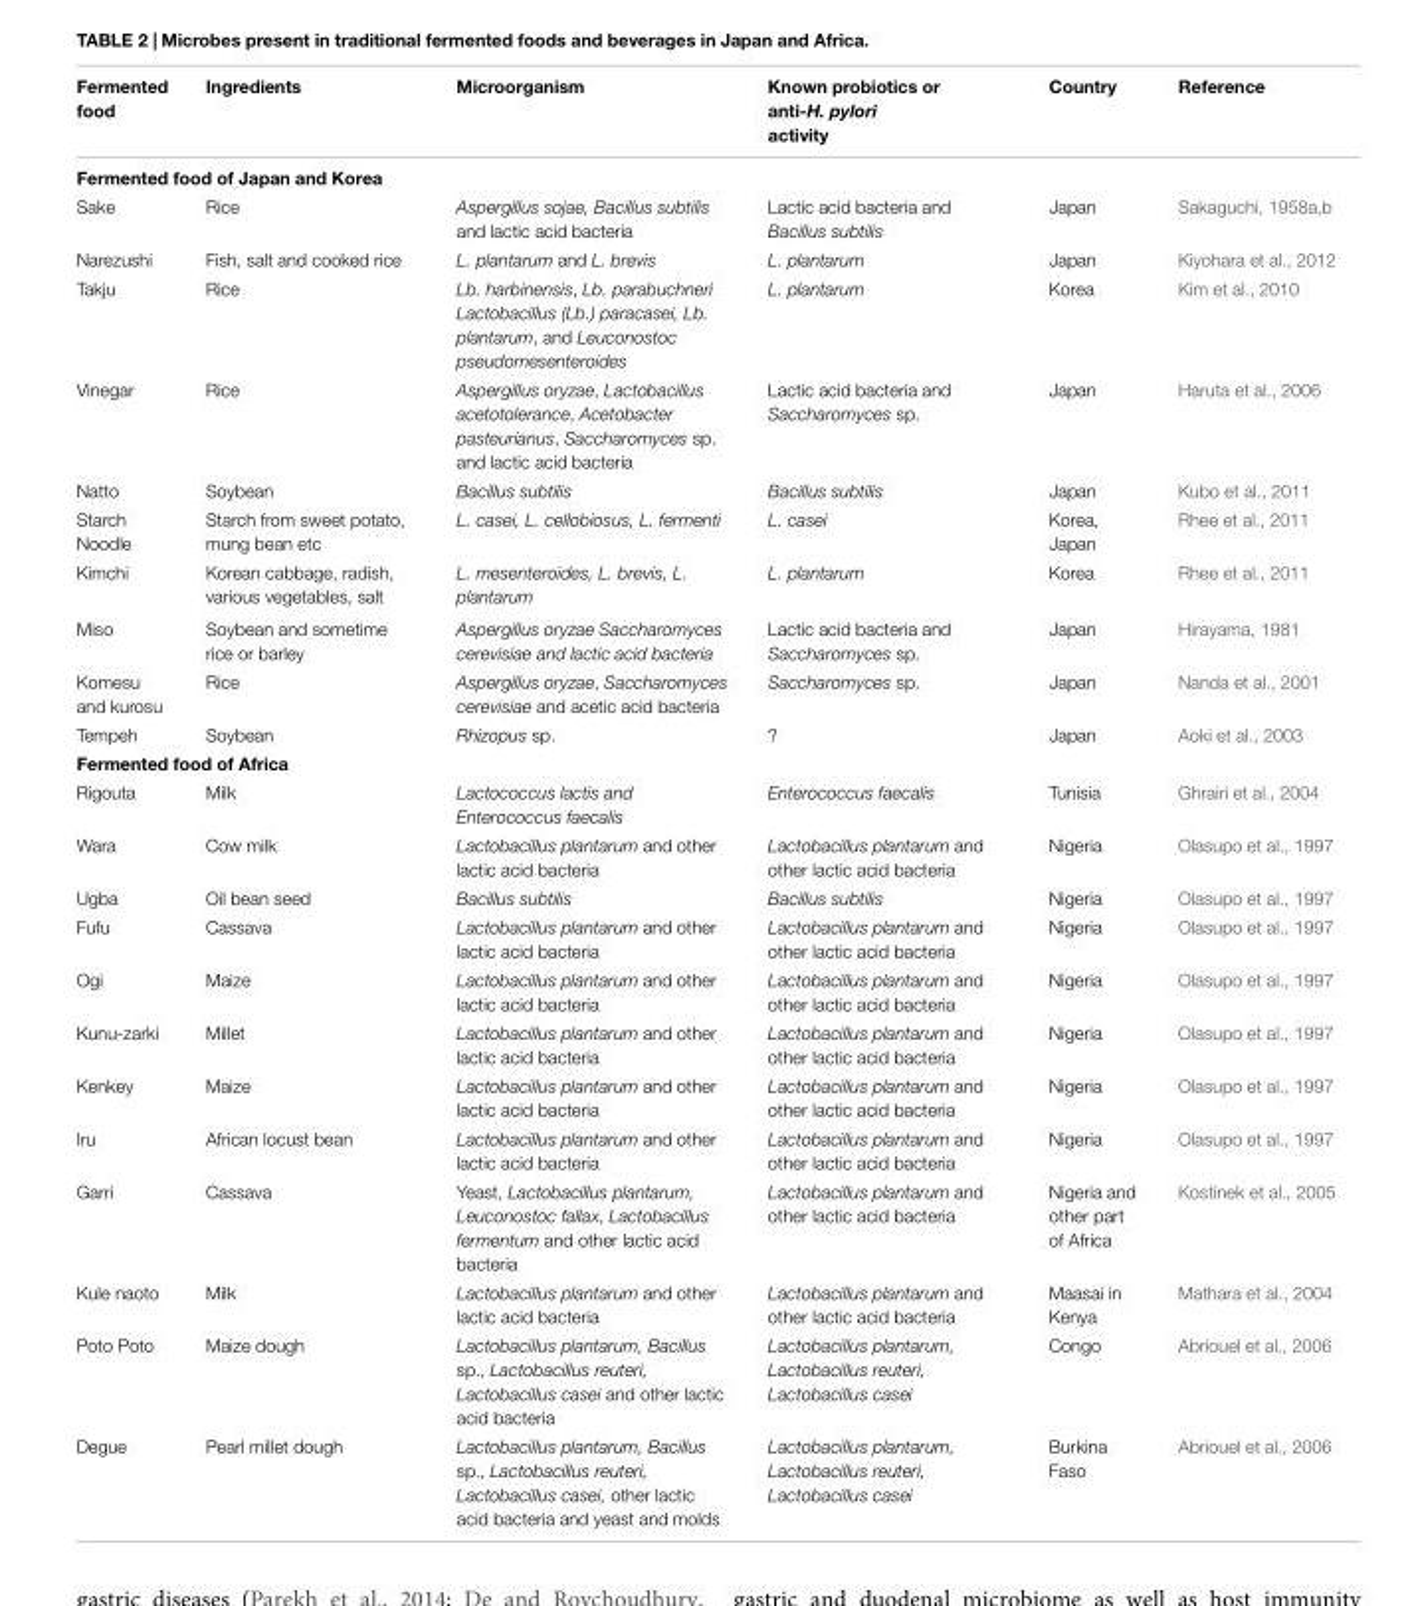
<table><thead><tr><td>Fermented food</td><td>Ingredients</td><td>Microorganism</td><td>Known probiotics or anti-H. pylori activity</td><td>Country</td><td>Reference</td></tr></thead><tbody><tr><td colspan="6">Fermented food of Japan and Korea</td></tr><tr><td>Sake</td><td>Rice</td><td>Aspergillus sojae, Bacillus subtilis and lactic acid bacteria</td><td>Lactic acid bacteria and Bacillus subtilis</td><td>Japan</td><td>Sakaguchi, 1958a,b</td></tr><tr><td>Narezushi</td><td>Fish, salt and cooked rice</td><td>L. plantarum and L. brevis</td><td>L. plantarum</td><td>Japan</td><td>Kiyohara et al., 2012</td></tr><tr><td>Takju</td><td>Rice</td><td>Lb. harbinensis, Lb. parabuchneri Lactobacillus (Lb.) paracasei, Lb. plantarum, and Leuconostoc pseudomesenteroides</td><td>L. plantarum</td><td>Korea</td><td>Kim et al., 2010</td></tr><tr><td>Vinegar</td><td>Rice</td><td>Aspergillus oryzae, Lactobacillus acetotolerance, Acetobacter pasteurianus, Saccharomyces sp. and lactic acid bacteria</td><td>Lactic acid bacteria and Saccharomyces sp.</td><td>Japan</td><td>Haruta et al., 2006</td></tr><tr><td>Natto</td><td>Soybean</td><td>Bacillus subtilis</td><td>Bacillus subtilis</td><td>Japan</td><td>Kubo et al., 2011</td></tr><tr><td>Starch Noodle</td><td>Starch from sweet potato, mung bean etc</td><td>L. casei, L. cellobiosus, L. fermenti</td><td>L. casei</td><td>Korea, Japan</td><td>Rhee et al., 2011</td></tr><tr><td>Kimchi</td><td>Korean cabbage, radish, various vegetables, salt</td><td>L. mesenteroides, L. brevis, L. plantarum</td><td>L. plantarum</td><td>Korea</td><td>Rhee et al., 2011</td></tr><tr><td>Miso</td><td>Soybean and sometime rice or barley</td><td>Aspergillus oryzae Saccharomyces cerevisiae and lactic acid bacteria</td><td>Lactic acid bacteria and Saccharomyces sp.</td><td>Japan</td><td>Hirayama, 1981</td></tr><tr><td>Komesu and kurosu</td><td>Rice</td><td>Aspergillus oryzae, Saccharomyces cerevisiae and acetic acid bacteria</td><td>Saccharomyces sp.</td><td>Japan</td><td>Nanda et al., 2001</td></tr><tr><td>Tempeh</td><td>Soybean</td><td>Rhizopus sp.</td><td>?</td><td>Japan</td><td>Aoki et al., 2003</td></tr><tr><td colspan="6">Fermented food of Africa</td></tr><tr><td>Rigouta</td><td>Milk</td><td>Lactococcus lactis and Enterococcus faecalis</td><td>Enterococcus faecalis</td><td>Tunisia</td><td>Ghrairi et al., 2004</td></tr><tr><td>Wara</td><td>Cow milk</td><td>Lactobacillus plantarum and other lactic acid bacteria</td><td>Lactobacillus plantarum and other lactic acid bacteria</td><td>Nigeria</td><td>Olasupo et al., 1997</td></tr><tr><td>Ugba</td><td>Oil bean seed</td><td>Bacillus subtilis</td><td>Bacillus subtilis</td><td>Nigeria</td><td>Olasupo et al., 1997</td></tr><tr><td>Fufu</td><td>Cassava</td><td>Lactobacillus plantarum and other lactic acid bacteria</td><td>Lactobacillus plantarum and other lactic acid bacteria</td><td>Nigeria</td><td>Olasupo et al., 1997</td></tr><tr><td>Ogi</td><td>Maize</td><td>Lactobacillus plantarum and other lactic acid bacteria</td><td>Lactobacillus plantarum and other lactic acid bacteria</td><td>Nigeria</td><td>Olasupo et al., 1997</td></tr><tr><td>Kunu-zarki</td><td>Millet</td><td>Lactobacillus plantarum and other lactic acid bacteria</td><td>Lactobacillus plantarum and other lactic acid bacteria</td><td>Nigeria</td><td>Olasupo et al., 1997</td></tr><tr><td>Kenkey</td><td>Maize</td><td>Lactobacillus plantarum and other lactic acid bacteria</td><td>Lactobacillus plantarum and other lactic acid bacteria</td><td>Nigeria</td><td>Olasupo et al., 1997</td></tr><tr><td>Iru</td><td>African locust bean</td><td>Lactobacillus plantarum and other lactic acid bacteria</td><td>Lactobacillus plantarum and other lactic acid bacteria</td><td>Nigeria</td><td>Olasupo et al., 1997</td></tr><tr><td>Garri</td><td>Cassava</td><td>Yeast, Lactobacillus plantarum, Leuconostoc fallax, Lactobacillus fermentum and other lactic acid bacteria</td><td>Lactobacillus plantarum and other lactic acid bacteria</td><td>Nigeria and other part of Africa</td><td>Kostinek et al., 2005</td></tr><tr><td>Kule naoto</td><td>Milk</td><td>Lactobacillus plantarum and other lactic acid bacteria</td><td>Lactobacillus plantarum and other lactic acid bacteria</td><td>Maasai in Kenya</td><td>Mathara et al., 2004</td></tr><tr><td>Poto Poto</td><td>Maize dough</td><td>Lactobacillus plantarum, Bacillus sp., Lactobacillus reuteri, Lactobacillus casei and other lactic acid bacteria</td><td>Lactobacillus plantarum, Lactobacillus reuteri, Lactobacillus casei</td><td>Congo</td><td>Abriouel et al., 2006</td></tr><tr><td>Degue</td><td>Pearl millet dough</td><td>Lactobacillus plantarum, Bacillus sp., Lactobacillus reuteri, Lactobacillus casei, other lactic acid bacteria and yeast and molds</td><td>Lactobacillus plantarum, Lactobacillus reuteri, Lactobacillus casei</td><td>Burkina Faso</td><td>Abriouel et al., 2006</td></tr></tbody></table>